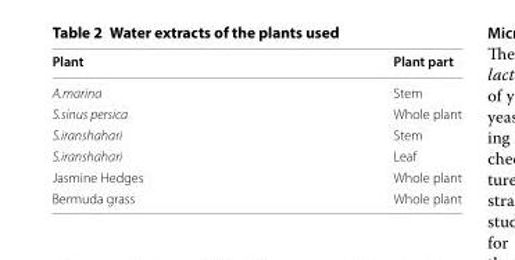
<table><thead><tr><td>Plant</td><td>Plant part</td></tr></thead><tbody><tr><td>A.marina</td><td>Stem</td></tr><tr><td>S.sinus persica</td><td>Whole plant</td></tr><tr><td>S.iranshahari</td><td>Stem</td></tr><tr><td>S.iranshahari</td><td>Leaf</td></tr><tr><td>Jasmine Hedges</td><td>Whole plant</td></tr><tr><td>Bermuda grass</td><td>Whole plant</td></tr></tbody></table>